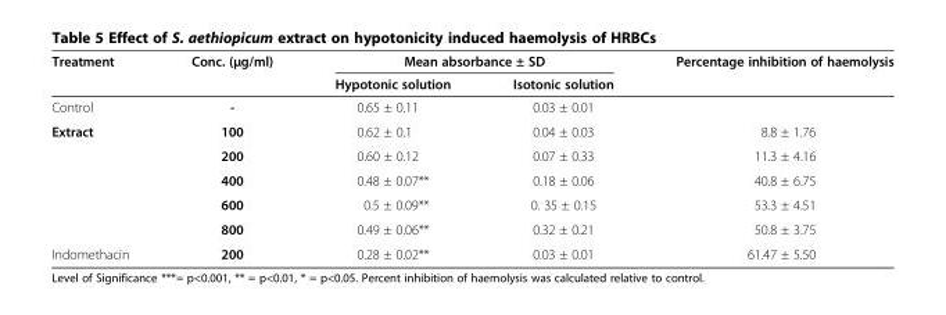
<table><thead><tr><td rowspan="2">Treatment</td><td rowspan="2">Conc. (μg/ml)</td><td colspan="2">Mean absorbance ± SD</td><td rowspan="2">Percentage inhibition of haemolysis</td></tr><tr><td>Hypotonic solution</td><td>Isotonic solution</td></tr></thead><tbody><tr><td>Control</td><td>-</td><td>0.65 ± 0.11</td><td>0.03 ± 0.01</td><td></td></tr><tr><td rowspan="5">Extract</td><td>100</td><td>0.62 ± 0.1</td><td>0.04 ± 0.03</td><td>8.8 ± 1.76</td></tr><tr><td>200</td><td>0.60 ± 0.12</td><td>0.07 ± 0.33</td><td>11.3 ± 4.16</td></tr><tr><td>400</td><td>0.48 ± 0.07**</td><td>0.18 ± 0.06</td><td>40.8 ± 6.75</td></tr><tr><td>600</td><td>0.5 ± 0.09**</td><td>0. 35 ± 0.15</td><td>53.3 ± 4.51</td></tr><tr><td>800</td><td>0.49 ± 0.06**</td><td>0.32 ± 0.21</td><td>50.8 ± 3.75</td></tr><tr><td>Indomethacin</td><td>200</td><td>0.28 ± 0.02**</td><td>0.03 ± 0.01</td><td>61.47 ± 5.50</td></tr></tbody></table>